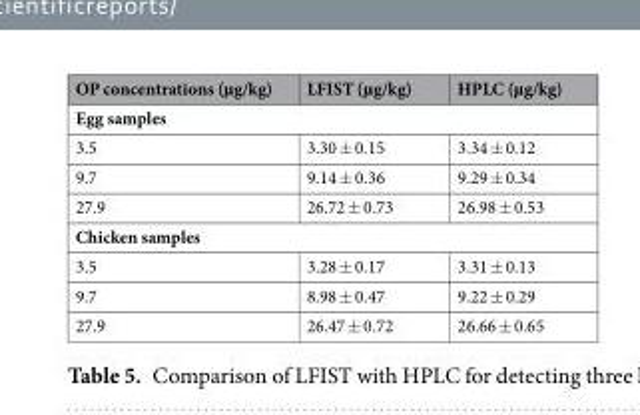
<table><thead><tr><td>OP concentrations (µg/kg)</td><td>LFIST (µg/kg)</td><td>HPLC (µg/kg)</td></tr></thead><tbody><tr><td colspan="3">Egg samples</td></tr><tr><td>3.5</td><td>3.30 ± 0.15</td><td>3.34 ± 0.12</td></tr><tr><td>9.7</td><td>9.14 ± 0.36</td><td>9.29 ± 0.34</td></tr><tr><td>27.9</td><td>26.72 ± 0.73</td><td>26.98 ± 0.53</td></tr><tr><td colspan="3">Chicken samples</td></tr><tr><td>3.5</td><td>3.28 ± 0.17</td><td>3.31 ± 0.13</td></tr><tr><td>9.7</td><td>8.98 ± 0.47</td><td>9.22 ± 0.29</td></tr><tr><td>27.9</td><td>26.47 ± 0.72</td><td>26.66 ± 0.65</td></tr></tbody></table>